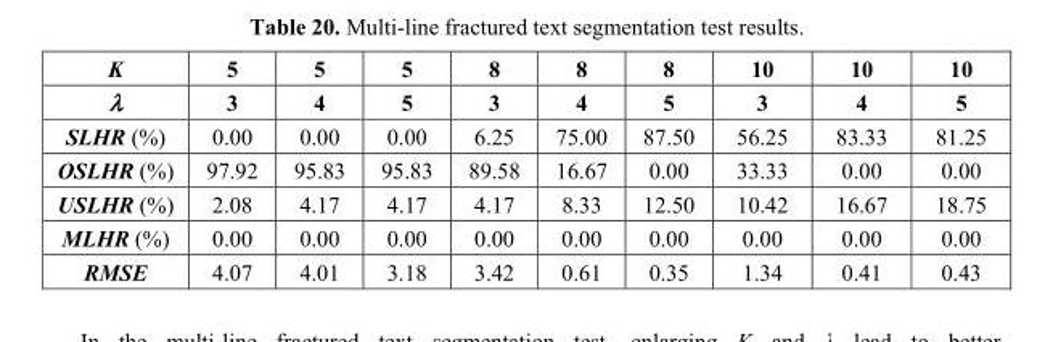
<table><thead><tr><td rowspan="2">K λ</td><td rowspan="2">5 3</td><td rowspan="2">5 4</td><td rowspan="2">5 5</td><td rowspan="2">8 3</td><td rowspan="2">8 4</td><td rowspan="2">8 5</td><td rowspan="2">10 3</td><td rowspan="2">10 4</td><td rowspan="2">10 5</td></tr><tr></tr></thead><tbody><tr><td>SLHR (%)</td><td>0.00</td><td>0.00</td><td>0.00</td><td>6.25</td><td>75.00</td><td>87.50</td><td>56.25</td><td>83.33</td><td>81.25</td></tr><tr><td>OSLHR (%)</td><td>97.92</td><td>95.83</td><td>95.83</td><td>89.58</td><td>16.67</td><td>0.00</td><td>33.33</td><td>0.00</td><td>0.00</td></tr><tr><td>USLHR (%)</td><td>2.08</td><td>4.17</td><td>4.17</td><td>4.17</td><td>8.33</td><td>12.50</td><td>10.42</td><td>16.67</td><td>18.75</td></tr><tr><td>MLHR (%)</td><td>0.00</td><td>0.00</td><td>0.00</td><td>0.00</td><td>0.00</td><td>0.00</td><td>0.00</td><td>0.00</td><td>0.00</td></tr><tr><td>RMSE</td><td>4.07</td><td>4.01</td><td>3.18</td><td>3.42</td><td>0.61</td><td>0.35</td><td>1.34</td><td>0.41</td><td>0.43</td></tr></tbody></table>